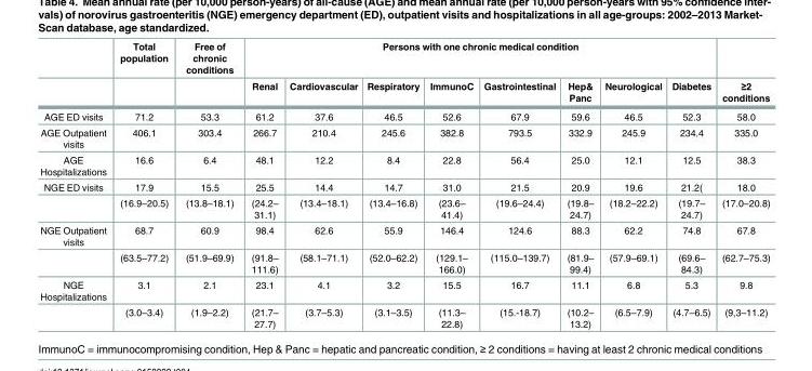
<table><thead><tr><td rowspan="2"></td><td rowspan="2">Total population</td><td rowspan="2">Free of chronic conditions</td><td colspan="8">Persons with one chronic medical condition</td><td rowspan="2">≥2 conditions</td></tr><tr><td>Renal</td><td>Cardiovascular</td><td>Respiratory</td><td>ImmunoC</td><td>Gastrointestinal</td><td>Hep&amp; Panc</td><td>Neurological</td><td>Diabetes</td></tr></thead><tbody><tr><td>AGE ED visits</td><td>71.2</td><td>53.3</td><td>61.2</td><td>37.6</td><td>46.5</td><td>52.6</td><td>67.9</td><td>59.6</td><td>46.5</td><td>52.3</td><td>58.0</td></tr><tr><td>AGE Outpatient visits</td><td>406.1</td><td>303.4</td><td>266.7</td><td>210.4</td><td>245.6</td><td>382.8</td><td>793.5</td><td>332.9</td><td>245.9</td><td>234.4</td><td>335.0</td></tr><tr><td>AGE Hospitalizations</td><td>16.6</td><td>6.4</td><td>48.1</td><td>12.2</td><td>8.4</td><td>22.8</td><td>56.4</td><td>25.0</td><td>12.1</td><td>12.5</td><td>38.3</td></tr><tr><td rowspan="2">NGE ED visits</td><td>17.9</td><td>15.5</td><td>25.5</td><td>14.4</td><td>14.7</td><td>31.0</td><td>21.5</td><td>20.9</td><td>19.6</td><td>21.2(</td><td>18.0</td></tr><tr><td>(16.9–20.5)</td><td>(13.8–18.1)</td><td>(24.2– 31.1)</td><td>(13.4–18.1)</td><td>(13.4–16.8)</td><td>(23.6– 41.4)</td><td>(19.6–24.4)</td><td>(19.8– 24.7)</td><td>(18.2–22.2)</td><td>(19.7– 24.7)</td><td>(17.0–20.8)</td></tr><tr><td rowspan="2">NGE Outpatient visits</td><td>68.7</td><td>60.9</td><td>98.4</td><td>62.6</td><td>55.9</td><td>146.4</td><td>124.6</td><td>88.3</td><td>62.2</td><td>74.8</td><td>67.8</td></tr><tr><td>(63.5–77.2)</td><td>(51.9–69.9)</td><td>(91.8– 111.6)</td><td>(58.1–71.1)</td><td>(52.0–62.2)</td><td>(129.1– 166.0)</td><td>(115.0–139.7)</td><td>(81.9– 99.4)</td><td>(57.9–69.1)</td><td>(69.6– 84.3)</td><td>(62.7–75.3)</td></tr><tr><td rowspan="2">NGE Hospitalizations</td><td>3.1</td><td>2.1</td><td>23.1</td><td>4.1</td><td>3.2</td><td>15.5</td><td>16.7</td><td>11.1</td><td>6.8</td><td>5.3</td><td>9.8</td></tr><tr><td>(3.0–3.4)</td><td>(1.9–2.2)</td><td>(21.7– 27.7)</td><td>(3.7–5.3)</td><td>(3.1–3.5)</td><td>(11.3– 22.8)</td><td>(15.-18.7)</td><td>(10.2– 13.2)</td><td>(6.5–7.9)</td><td>(4.7–6.5)</td><td>(9,3–11.2)</td></tr></tbody></table>